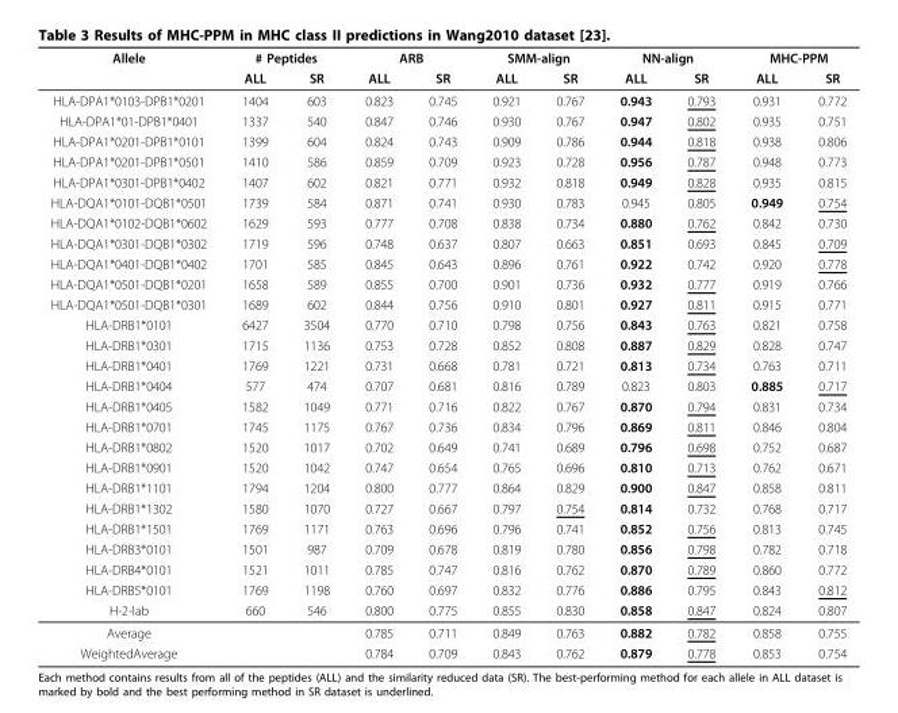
<table><thead><tr><td rowspan="2">Allele</td><td colspan="2"># Peptides</td><td colspan="2">ARB</td><td colspan="2">SMM-align</td><td colspan="2">NN-align</td><td colspan="2">MHC-PPM</td></tr><tr><td>ALL</td><td>SR</td><td>ALL</td><td>SR</td><td>ALL</td><td>SR</td><td>ALL</td><td>SR</td><td>ALL</td><td>SR</td></tr></thead><tbody><tr><td>HLA-DPA1*0103-DPB1*0201</td><td>1404</td><td>603</td><td>0.823</td><td>0.745</td><td>0.921</td><td>0.767</td><td>0.943</td><td>0.793</td><td>0.931</td><td>0.772</td></tr><tr><td>HLA-DPA1*01-DPB1*0401</td><td>1337</td><td>540</td><td>0.847</td><td>0.746</td><td>0.930</td><td>0.767</td><td>0.947</td><td>0.802</td><td>0.935</td><td>0.751</td></tr><tr><td>HLA-DPA1*0201-DPB1*0101</td><td>1399</td><td>604</td><td>0.824</td><td>0.743</td><td>0.909</td><td>0.786</td><td>0.944</td><td>0.818</td><td>0.938</td><td>0.806</td></tr><tr><td>HLA-DPA1*0201-DPB1*0501</td><td>1410</td><td>586</td><td>0.859</td><td>0.709</td><td>0.923</td><td>0.728</td><td>0.956</td><td>0.787</td><td>0.948</td><td>0.773</td></tr><tr><td>HLA-DPA1*0301-DPB1*0402</td><td>1407</td><td>602</td><td>0.821</td><td>0.771</td><td>0.932</td><td>0.818</td><td>0.949</td><td>0.828</td><td>0.935</td><td>0.815</td></tr><tr><td>HLA-DQA1*0101-DQB1*0501</td><td>1739</td><td>584</td><td>0.871</td><td>0.741</td><td>0.930</td><td>0.783</td><td>0.945</td><td>0.805</td><td>0.949</td><td>0.754</td></tr><tr><td>HLA-DQA1*0102-DQB1*0602</td><td>1629</td><td>593</td><td>0.777</td><td>0.708</td><td>0.838</td><td>0.734</td><td>0.880</td><td>0.762</td><td>0.842</td><td>0.730</td></tr><tr><td>HLA-DQA1*0301-DQB1*0302</td><td>1719</td><td>596</td><td>0.748</td><td>0.637</td><td>0.807</td><td>0.663</td><td>0.851</td><td>0.693</td><td>0.845</td><td>0.709</td></tr><tr><td>HLA-DQA1*0401-DQB1*0402</td><td>1701</td><td>585</td><td>0.845</td><td>0.643</td><td>0.896</td><td>0.761</td><td>0.922</td><td>0.742</td><td>0.920</td><td>0.778</td></tr><tr><td>HLA-DQA1*0501-DQB1*0201</td><td>1658</td><td>589</td><td>0.855</td><td>0.700</td><td>0.901</td><td>0.736</td><td>0.932</td><td>0.777</td><td>0.919</td><td>0.766</td></tr><tr><td>HLA-DQA1*0501-DQB1*0301</td><td>1689</td><td>602</td><td>0.844</td><td>0.756</td><td>0.910</td><td>0.801</td><td>0.927</td><td>0.811</td><td>0.915</td><td>0.771</td></tr><tr><td>HLA-DRB1*0101</td><td>6427</td><td>3504</td><td>0.770</td><td>0.710</td><td>0.798</td><td>0.756</td><td>0.843</td><td>0.763</td><td>0.821</td><td>0.758</td></tr><tr><td>HLA-DRB1*0301</td><td>1715</td><td>1136</td><td>0.753</td><td>0.728</td><td>0.852</td><td>0.808</td><td>0.887</td><td>0.829</td><td>0.828</td><td>0.747</td></tr><tr><td>HLA-DRB1*0401</td><td>1769</td><td>1221</td><td>0.731</td><td>0.668</td><td>0.781</td><td>0.721</td><td>0.813</td><td>0.734</td><td>0.763</td><td>0.711</td></tr><tr><td>HLA-DRB1*0404</td><td>577</td><td>474</td><td>0.707</td><td>0.681</td><td>0.816</td><td>0.789</td><td>0.823</td><td>0.803</td><td>0.885</td><td>0.717</td></tr><tr><td>HLA-DRB1*0405</td><td>1582</td><td>1049</td><td>0.771</td><td>0.716</td><td>0.822</td><td>0.767</td><td>0.870</td><td>0.794</td><td>0.831</td><td>0.734</td></tr><tr><td>HLA-DRB1*0701</td><td>1745</td><td>1175</td><td>0.767</td><td>0.736</td><td>0.834</td><td>0.796</td><td>0.869</td><td>0.811</td><td>0.846</td><td>0.804</td></tr><tr><td>HLA-DRB1*0802</td><td>1520</td><td>1017</td><td>0.702</td><td>0.649</td><td>0.741</td><td>0.689</td><td>0.796</td><td>0.698</td><td>0.752</td><td>0.687</td></tr><tr><td>HLA-DRB1*0901</td><td>1520</td><td>1042</td><td>0.747</td><td>0.654</td><td>0.765</td><td>0.696</td><td>0.810</td><td>0.713</td><td>0.762</td><td>0.671</td></tr><tr><td>HLA-DRB1*1101</td><td>1794</td><td>1204</td><td>0.800</td><td>0.777</td><td>0.864</td><td>0.829</td><td>0.900</td><td>0.847</td><td>0.858</td><td>0.811</td></tr><tr><td>HLA-DRB1*1302</td><td>1580</td><td>1070</td><td>0.727</td><td>0.667</td><td>0.797</td><td>0.754</td><td>0.814</td><td>0.732</td><td>0.768</td><td>0.717</td></tr><tr><td>HLA-DRB1*1501</td><td>1769</td><td>1171</td><td>0.763</td><td>0.696</td><td>0.796</td><td>0.741</td><td>0.852</td><td>0.756</td><td>0.813</td><td>0.745</td></tr><tr><td>HLA-DRB3*0101</td><td>1501</td><td>987</td><td>0.709</td><td>0.678</td><td>0.819</td><td>0.780</td><td>0.856</td><td>0.798</td><td>0.782</td><td>0.718</td></tr><tr><td>HLA-DRB4*0101</td><td>1521</td><td>1011</td><td>0.785</td><td>0.747</td><td>0.816</td><td>0.762</td><td>0.870</td><td>0.789</td><td>0.860</td><td>0.772</td></tr><tr><td>HLA-DRB5*0101</td><td>1769</td><td>1198</td><td>0.760</td><td>0.697</td><td>0.832</td><td>0.776</td><td>0.886</td><td>0.795</td><td>0.843</td><td>0.812</td></tr><tr><td>H-2-Iab</td><td>660</td><td>546</td><td>0.800</td><td>0.775</td><td>0.855</td><td>0.830</td><td>0.858</td><td>0.847</td><td>0.824</td><td>0.807</td></tr><tr><td>Average</td><td></td><td></td><td>0.785</td><td>0.711</td><td>0.849</td><td>0.763</td><td>0.882</td><td>0.782</td><td>0.858</td><td>0.755</td></tr><tr><td>WeightedAverage</td><td></td><td></td><td>0.784</td><td>0.709</td><td>0.843</td><td>0.762</td><td>0.879</td><td>0.778</td><td>0.853</td><td>0.754</td></tr></tbody></table>